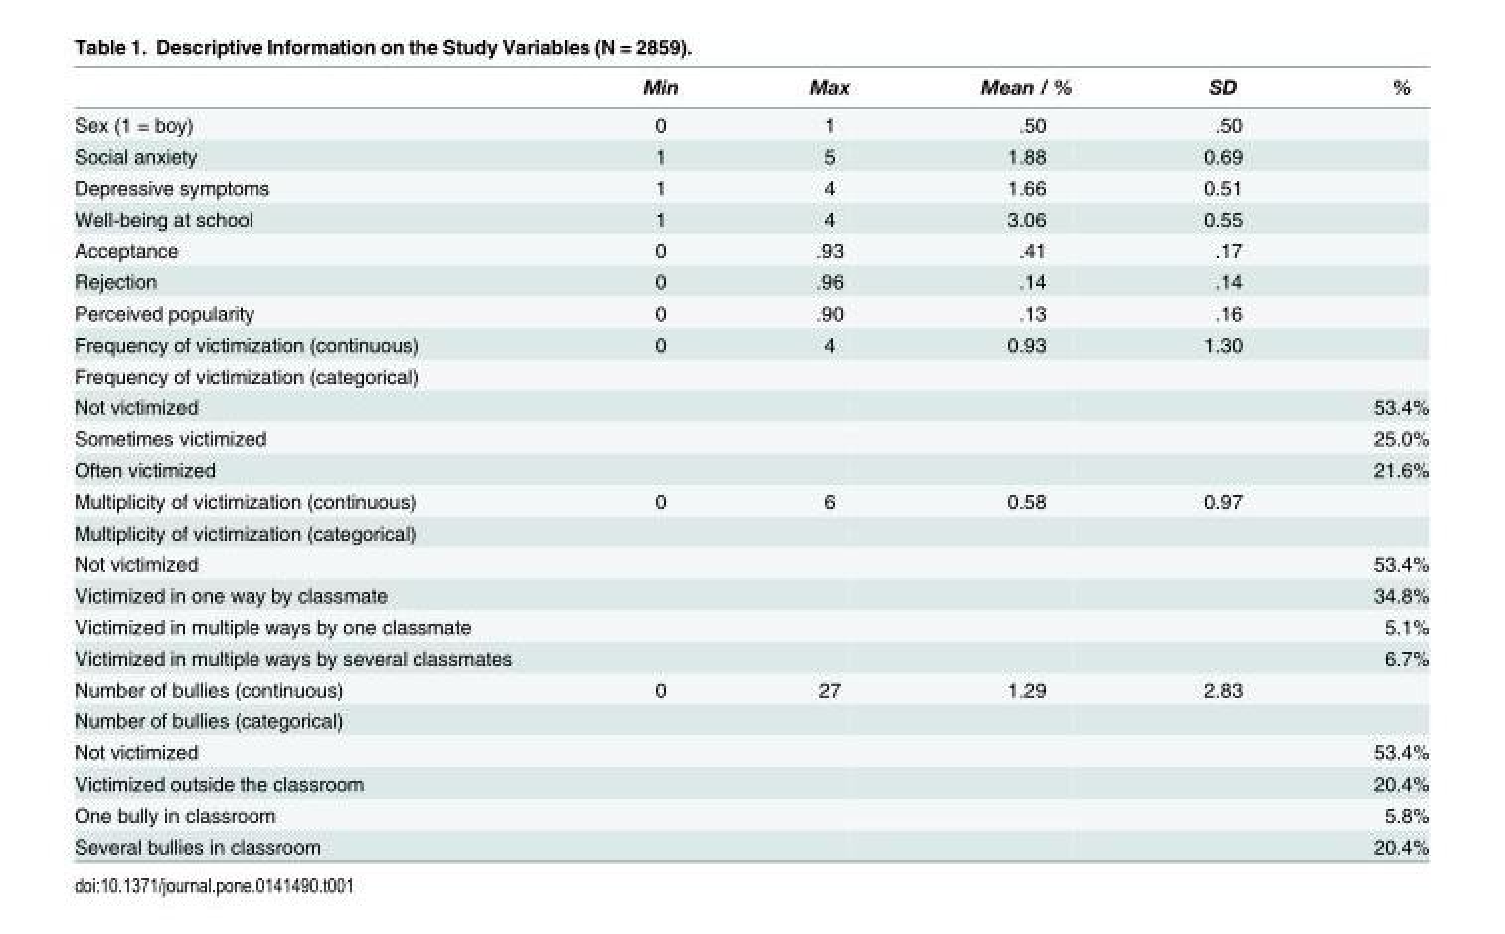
<table><thead><tr><td></td><td>Min</td><td>Max</td><td>Mean / %</td><td>SD</td><td>%</td></tr></thead><tbody><tr><td>Sex (1 = boy)</td><td>0</td><td>1</td><td>.50</td><td>.50</td><td></td></tr><tr><td>Social anxiety</td><td>1</td><td>5</td><td>1.88</td><td>0.69</td><td></td></tr><tr><td>Depressive symptoms</td><td>1</td><td>4</td><td>1.66</td><td>0.51</td><td></td></tr><tr><td>Well-being at school</td><td>1</td><td>4</td><td>3.06</td><td>0.55</td><td></td></tr><tr><td>Acceptance</td><td>0</td><td>.93</td><td>.41</td><td>.17</td><td></td></tr><tr><td>Rejection</td><td>0</td><td>.96</td><td>.14</td><td>.14</td><td></td></tr><tr><td>Perceived popularity</td><td>0</td><td>.90</td><td>.13</td><td>.16</td><td></td></tr><tr><td>Frequency of victimization (continuous)</td><td>0</td><td>4</td><td>0.93</td><td>1.30</td><td></td></tr><tr><td colspan="6">Frequency of victimization (categorical)</td></tr><tr><td>Not victimized</td><td></td><td></td><td></td><td></td><td>53.4%</td></tr><tr><td>Sometimes victimized</td><td></td><td></td><td></td><td></td><td>25.0%</td></tr><tr><td>Often victimized</td><td></td><td></td><td></td><td></td><td>21.6%</td></tr><tr><td>Multiplicity of victimization (continuous)</td><td>0</td><td>6</td><td>0.58</td><td>0.97</td><td></td></tr><tr><td colspan="6">Multiplicity of victimization (categorical)</td></tr><tr><td>Not victimized</td><td></td><td></td><td></td><td></td><td>53.4%</td></tr><tr><td>Victimized in one way by classmate</td><td></td><td></td><td></td><td></td><td>34.8%</td></tr><tr><td>Victimized in multiple ways by one classmate</td><td></td><td></td><td></td><td></td><td>5.1%</td></tr><tr><td>Victimized in multiple ways by several classmates</td><td></td><td></td><td></td><td></td><td>6.7%</td></tr><tr><td>Number of bullies (continuous)</td><td>0</td><td>27</td><td>1.29</td><td>2.83</td><td></td></tr><tr><td colspan="6">Number of bullies (categorical)</td></tr><tr><td>Not victimized</td><td></td><td></td><td></td><td></td><td>53.4%</td></tr><tr><td>Victimized outside the classroom</td><td></td><td></td><td></td><td></td><td>20.4%</td></tr><tr><td>One bully in classroom</td><td></td><td></td><td></td><td></td><td>5.8%</td></tr><tr><td>Several bullies in classroom</td><td></td><td></td><td></td><td></td><td>20.4%</td></tr></tbody></table>